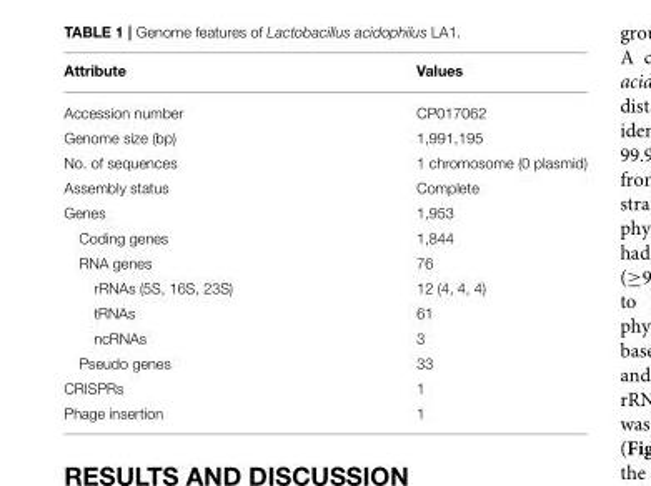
<table><thead><tr><td>Attribute</td><td>Values</td></tr></thead><tbody><tr><td>Accession number</td><td>CP017062</td></tr><tr><td>Genome size (bp)</td><td>1,991,195</td></tr><tr><td>No. of sequences</td><td>1 chromosome (0 plasmid)</td></tr><tr><td>Assembly status</td><td>Complete</td></tr><tr><td>Genes</td><td>1,953</td></tr><tr><td>Coding genes</td><td>1,844</td></tr><tr><td>RNA genes</td><td>76</td></tr><tr><td>rRNAs (5S, 16S, 23S)</td><td>12 (4, 4, 4)</td></tr><tr><td>tRNAs</td><td>61</td></tr><tr><td>ncRNAs</td><td>3</td></tr><tr><td>Pseudo genes</td><td>33</td></tr><tr><td>CRISPRs</td><td>1</td></tr><tr><td>Phage insertion</td><td>1</td></tr></tbody></table>